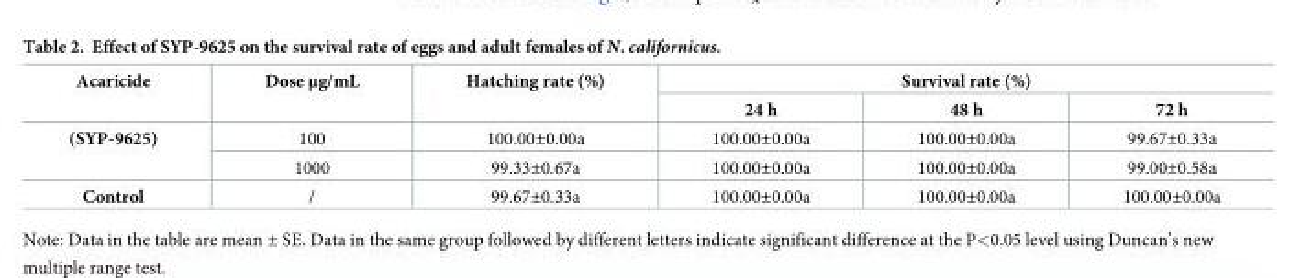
<table><thead><tr><td rowspan="2">Acaricide</td><td rowspan="2">Dose μg/mL</td><td rowspan="2">Hatching rate (%)</td><td colspan="3">Survival rate (%)</td></tr><tr><td>24 h</td><td>48 h</td><td>72 h</td></tr></thead><tbody><tr><td rowspan="2">(SYP-9625)</td><td>100</td><td>100.00±0.00a</td><td>100.00±0.00a</td><td>100.00±0.00a</td><td>99.67±0.33a</td></tr><tr><td>1000</td><td>99.33±0.67a</td><td>100.00±0.00a</td><td>100.00±0.00a</td><td>99.00±0.58a</td></tr><tr><td>Control</td><td>/</td><td>99.67±0.33a</td><td>100.00±0.00a</td><td>100.00±0.00a</td><td>100.00±0.00a</td></tr></tbody></table>